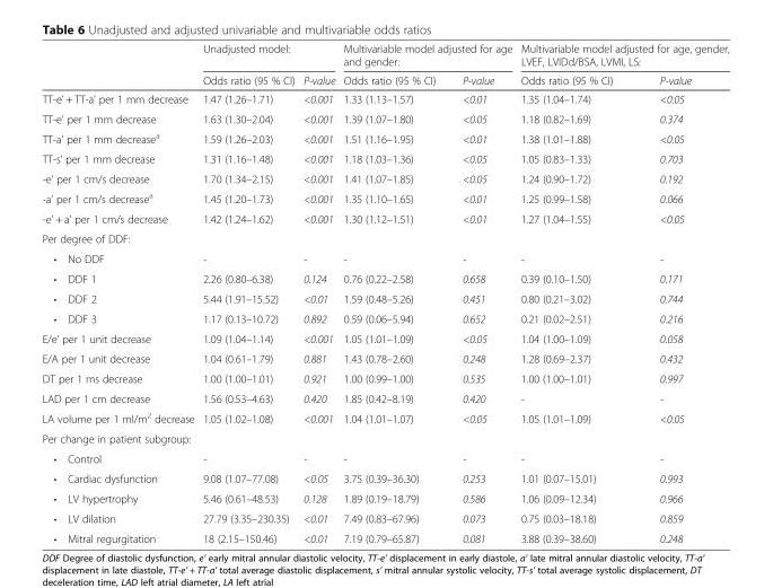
<table><thead><tr><td rowspan="2"></td><td colspan="2">Unadjusted model:</td><td colspan="2">Multivariable model adjusted for age and gender:</td><td colspan="2">Multivariable model adjusted for age, gender, LVEF, LVIDd/BSA, LVMI, LS:</td></tr><tr><td>Odds ratio (95 % CI)</td><td>P-value</td><td>Odds ratio (95 % CI)</td><td>P-value</td><td>Odds ratio (95 % CI)</td><td>P-value</td></tr></thead><tbody><tr><td>TT-e’ + TT-a’ per 1 mm decrease</td><td>1.47 (1.26–1.71)</td><td>&lt;0.001</td><td>1.33 (1.13–1.57)</td><td>&lt;0.01</td><td>1.35 (1.04–1.74)</td><td>&lt;0.05</td></tr><tr><td>TT-e’ per 1 mm decrease</td><td>1.63 (1.30–2.04)</td><td>&lt;0.001</td><td>1.39 (1.07–1.80)</td><td>&lt;0.05</td><td>1.18 (0.82–1.69)</td><td>0.374</td></tr><tr><td>TT-a’ per 1 mm decrease<sup>a</sup></td><td>1.59 (1.26–2.03)</td><td>&lt;0.001</td><td>1.51 (1.16–1.95)</td><td>&lt;0.01</td><td>1.38 (1.01–1.88)</td><td>&lt;0.05</td></tr><tr><td>TT-s’ per 1 mm decrease</td><td>1.31 (1.16–1.48)</td><td>&lt;0.001</td><td>1.18 (1.03–1.36)</td><td>&lt;0.05</td><td>1.05 (0.83–1.33)</td><td>0.703</td></tr><tr><td>-e’ per 1 cm/s decrease</td><td>1.70 (1.34–2.15)</td><td>&lt;0.001</td><td>1.41 (1.07–1.85)</td><td>&lt;0.05</td><td>1.24 (0.90–1.72)</td><td>0.192</td></tr><tr><td>-a’ per 1 cm/s decrease<sup>a</sup></td><td>1.45 (1.20–1.73)</td><td>&lt;0.001</td><td>1.35 (1.10–1.65)</td><td>&lt;0.01</td><td>1.25 (0.99–1.58)</td><td>0.066</td></tr><tr><td>-e’ + a’ per 1 cm/s decrease</td><td>1.42 (1.24–1.62)</td><td>&lt;0.001</td><td>1.30 (1.12–1.51)</td><td>&lt;0.01</td><td>1.27 (1.04–1.55)</td><td>&lt;0.05</td></tr><tr><td colspan="7">Per degree of DDF:</td></tr><tr><td>• No DDF</td><td>-</td><td>-</td><td>-</td><td>-</td><td>-</td><td>-</td></tr><tr><td>• DDF 1</td><td>2.26 (0.80–6.38)</td><td>0.124</td><td>0.76 (0.22–2.58)</td><td>0.658</td><td>0.39 (0.10–1.50)</td><td>0.171</td></tr><tr><td>• DDF 2</td><td>5.44 (1.91–15.52)</td><td>&lt;0.01</td><td>1.59 (0.48–5.26)</td><td>0.451</td><td>0.80 (0.21–3.02)</td><td>0.744</td></tr><tr><td>• DDF 3</td><td>1.17 (0.13–10.72)</td><td>0.892</td><td>0.59 (0.06–5.94)</td><td>0.652</td><td>0.21 (0.02–2.51)</td><td>0.216</td></tr><tr><td>E/e’ per 1 unit decrease</td><td>1.09 (1.04–1.14)</td><td>&lt;0.001</td><td>1.05 (1.01–1.09)</td><td>&lt;0.05</td><td>1.04 (1.00–1.09)</td><td>0.058</td></tr><tr><td>E/A per 1 unit decrease</td><td>1.04 (0.61–1.79)</td><td>0.881</td><td>1.43 (0.78–2.60)</td><td>0.248</td><td>1.28 (0.69–2.37)</td><td>0.432</td></tr><tr><td>DT per 1 ms decrease</td><td>1.00 (1.00–1.01)</td><td>0.921</td><td>1.00 (0.99–1.00)</td><td>0.535</td><td>1.00 (1.00–1.01)</td><td>0.997</td></tr><tr><td>LAD per 1 cm decrease</td><td>1.56 (0.53–4.63)</td><td>0.420</td><td>1.85 (0.42–8.19)</td><td>0.420</td><td>-</td><td>-</td></tr><tr><td>LA volume per 1 ml/m<sup>2</sup> decrease</td><td>1.05 (1.02–1.08)</td><td>&lt;0.001</td><td>1.04 (1.01–1.07)</td><td>&lt;0.05</td><td>1.05 (1.01–1.09)</td><td>&lt;0.05</td></tr><tr><td colspan="7">Per change in patient subgroup:</td></tr><tr><td>• Control</td><td>-</td><td>-</td><td>-</td><td>-</td><td>-</td><td>-</td></tr><tr><td>• Cardiac dysfunction</td><td>9.08 (1.07–77.08)</td><td>&lt;0.05</td><td>3.75 (0.39–36.30)</td><td>0.253</td><td>1.01 (0.07–15.01)</td><td>0.993</td></tr><tr><td>• LV hypertrophy</td><td>5.46 (0.61–48.53)</td><td>0.128</td><td>1.89 (0.19–18.79)</td><td>0.586</td><td>1.06 (0.09–12.34)</td><td>0.966</td></tr><tr><td>• LV dilation</td><td>27.79 (3.35–230.35)</td><td>&lt;0.01</td><td>7.49 (0.83–67.96)</td><td>0.073</td><td>0.75 (0.03–18.18)</td><td>0.859</td></tr><tr><td>• Mitral regurgitation</td><td>18 (2.15–150.46)</td><td>&lt;0.01</td><td>7.19 (0.79–65.87)</td><td>0.081</td><td>3.88 (0.39–38.60)</td><td>0.248</td></tr></tbody></table>